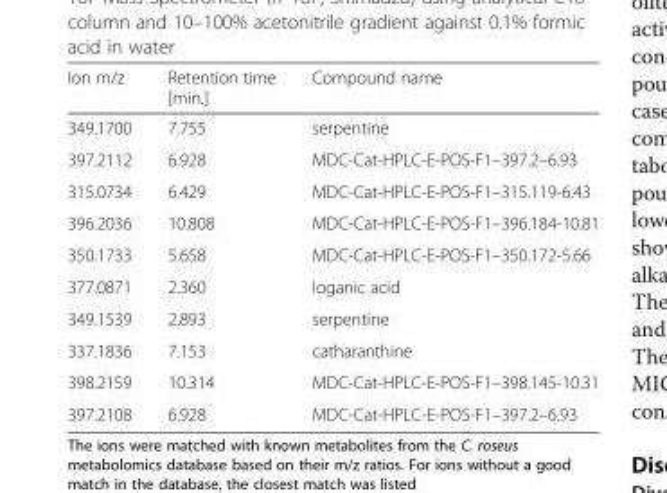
<table><thead><tr><td>Ion m/z</td><td>Retention time [min.]</td><td>Compound name</td></tr></thead><tbody><tr><td>349.1700</td><td>7.755</td><td>serpentine</td></tr><tr><td>397.2112</td><td>6.928</td><td>MDC-Cat-HPLC-E-POS-F1–397.2–6.93</td></tr><tr><td>315.0734</td><td>6.429</td><td>MDC-Cat-HPLC-E-POS-F1–315.119-6.43</td></tr><tr><td>396.2036</td><td>10.808</td><td>MDC-Cat-HPLC-E-POS-F1–396.184-10.81</td></tr><tr><td>350.1733</td><td>5.658</td><td>MDC-Cat-HPLC-E-POS-F1–350.172-5.66</td></tr><tr><td>377.0871</td><td>2.360</td><td>loganic acid</td></tr><tr><td>349.1539</td><td>2.893</td><td>serpentine</td></tr><tr><td>337.1836</td><td>7.153</td><td>catharanthine</td></tr><tr><td>398.2159</td><td>10.314</td><td>MDC-Cat-HPLC-E-POS-F1–398.145-10.31</td></tr><tr><td>397.2108</td><td>6.928</td><td>MDC-Cat-HPLC-E-POS-F1–397.2–6.93</td></tr></tbody></table>